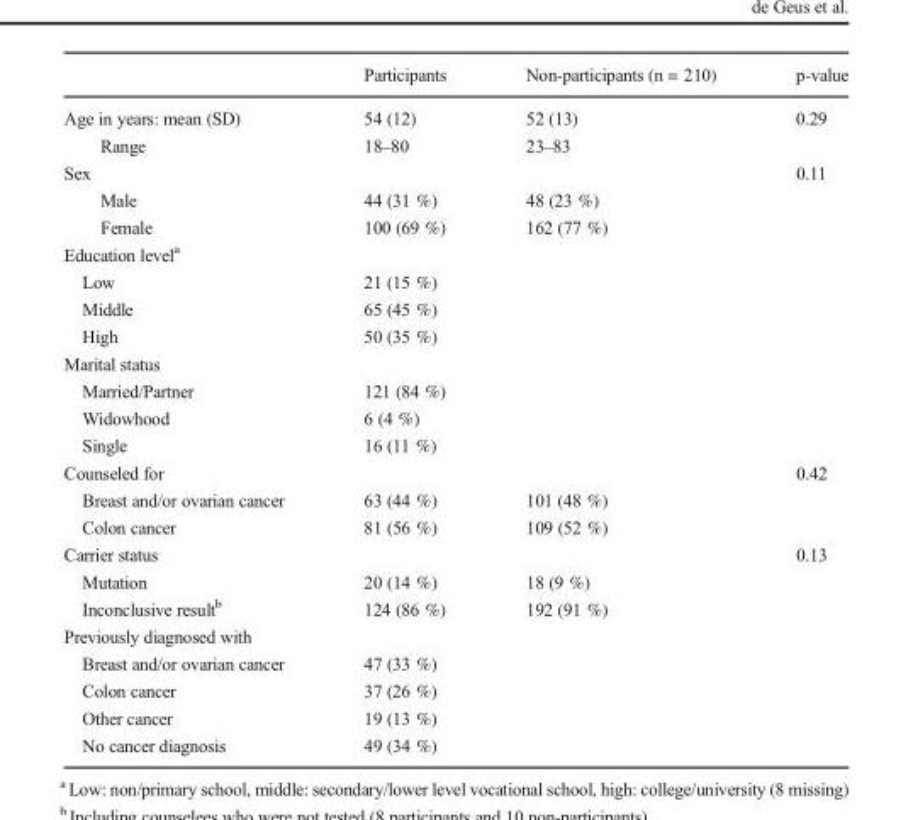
<table><thead><tr><td></td><td>Participants</td><td>Non-participants (n = 210)</td><td>p-value</td></tr></thead><tbody><tr><td>Age in years: mean (SD)</td><td>54 (12)</td><td>52 (13)</td><td>0.29</td></tr><tr><td>Range</td><td>18–80</td><td>23–83</td><td></td></tr><tr><td colspan="3">Sex</td><td>0.11</td></tr><tr><td>Male</td><td>44 (31 %)</td><td>48 (23 %)</td><td></td></tr><tr><td>Female</td><td>100 (69 %)</td><td>162 (77 %)</td><td></td></tr><tr><td colspan="4">Education level<sup>a</sup></td></tr><tr><td>Low</td><td>21 (15 %)</td><td></td><td></td></tr><tr><td>Middle</td><td>65 (45 %)</td><td></td><td></td></tr><tr><td>High</td><td>50 (35 %)</td><td></td><td></td></tr><tr><td colspan="4">Marital status</td></tr><tr><td>Married/Partner</td><td>121 (84 %)</td><td></td><td></td></tr><tr><td>Widowhood</td><td>6 (4 %)</td><td></td><td></td></tr><tr><td>Single</td><td>16 (11 %)</td><td></td><td></td></tr><tr><td colspan="3">Counseled for</td><td>0.42</td></tr><tr><td>Breast and/or ovarian cancer</td><td>63 (44 %)</td><td>101 (48 %)</td><td></td></tr><tr><td>Colon cancer</td><td>81 (56 %)</td><td>109 (52 %)</td><td></td></tr><tr><td colspan="3">Carrier status</td><td>0.13</td></tr><tr><td>Mutation</td><td>20 (14 %)</td><td>18 (9 %)</td><td></td></tr><tr><td>Inconclusive result<sup>b</sup></td><td>124 (86 %)</td><td>192 (91 %)</td><td></td></tr><tr><td colspan="4">Previously diagnosed with</td></tr><tr><td>Breast and/or ovarian cancer</td><td>47 (33 %)</td><td></td><td></td></tr><tr><td>Colon cancer</td><td>37 (26 %)</td><td></td><td></td></tr><tr><td>Other cancer</td><td>19 (13 %)</td><td></td><td></td></tr><tr><td>No cancer diagnosis</td><td>49 (34 %)</td><td></td><td></td></tr></tbody></table>